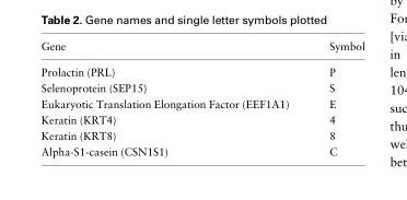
<table><thead><tr><td>Gene</td><td>Symbol</td></tr></thead><tbody><tr><td>Prolactin (PRL)</td><td>P</td></tr><tr><td>Selenoprotein (SEP15)</td><td>S</td></tr><tr><td>Eukaryotic Translation Elongation Factor (EEF1A1)</td><td>E</td></tr><tr><td>Keratin (KRT4)</td><td>4</td></tr><tr><td>Keratin (KRT8)</td><td>8</td></tr><tr><td>Alpha-S1-casein (CSN1S1)</td><td>C</td></tr></tbody></table>